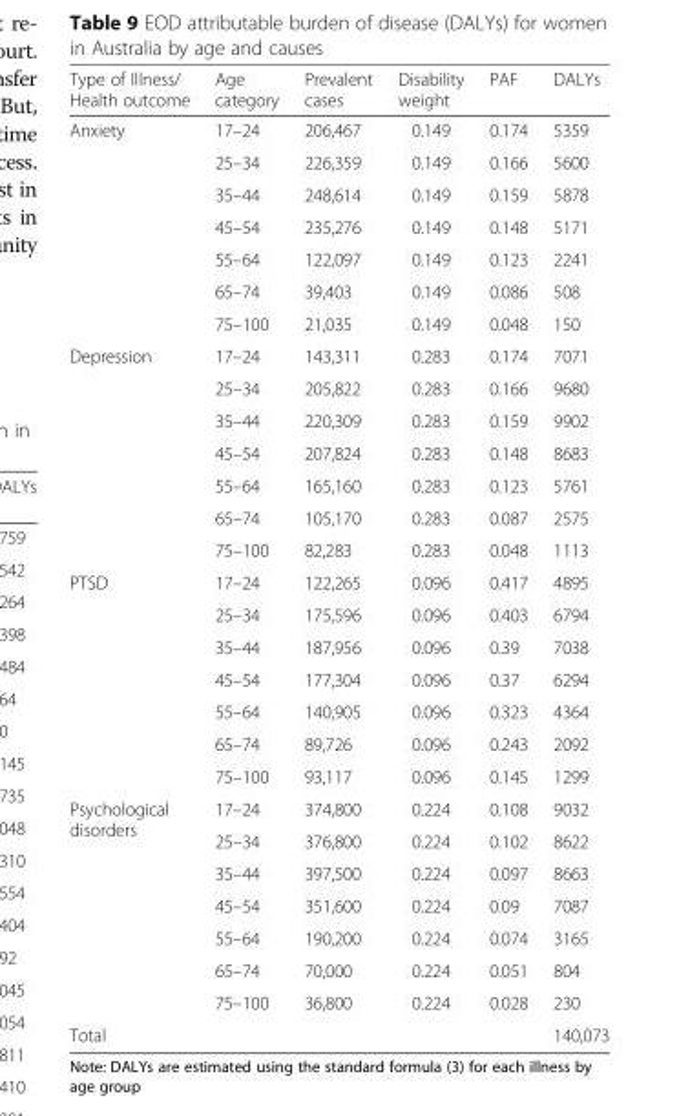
<table><thead><tr><td>Type of Illness/ Health outcome</td><td>Age category</td><td>Prevalent cases</td><td>Disability weight</td><td>PAF</td><td>DALYs</td></tr></thead><tbody><tr><td rowspan="7">Anxiety</td><td>17–24</td><td>206,467</td><td>0.149</td><td>0.174</td><td>5359</td></tr><tr><td>25–34</td><td>226,359</td><td>0.149</td><td>0.166</td><td>5600</td></tr><tr><td>35–44</td><td>248,614</td><td>0.149</td><td>0.159</td><td>5878</td></tr><tr><td>45–54</td><td>235,276</td><td>0.149</td><td>0.148</td><td>5171</td></tr><tr><td>55–64</td><td>122,097</td><td>0.149</td><td>0.123</td><td>2241</td></tr><tr><td>65–74</td><td>39,403</td><td>0.149</td><td>0.086</td><td>508</td></tr><tr><td>75–100</td><td>21,035</td><td>0.149</td><td>0.048</td><td>150</td></tr><tr><td rowspan="7">Depression</td><td>17–24</td><td>143,311</td><td>0.283</td><td>0.174</td><td>7071</td></tr><tr><td>25–34</td><td>205,822</td><td>0.283</td><td>0.166</td><td>9680</td></tr><tr><td>35–44</td><td>220,309</td><td>0.283</td><td>0.159</td><td>9902</td></tr><tr><td>45–54</td><td>207,824</td><td>0.283</td><td>0.148</td><td>8683</td></tr><tr><td>55–64</td><td>165,160</td><td>0.283</td><td>0.123</td><td>5761</td></tr><tr><td>65–74</td><td>105,170</td><td>0.283</td><td>0.087</td><td>2575</td></tr><tr><td>75–100</td><td>82,283</td><td>0.283</td><td>0.048</td><td>1113</td></tr><tr><td rowspan="7">PTSD</td><td>17–24</td><td>122,265</td><td>0.096</td><td>0.417</td><td>4895</td></tr><tr><td>25–34</td><td>175,596</td><td>0.096</td><td>0.403</td><td>6794</td></tr><tr><td>35–44</td><td>187,956</td><td>0.096</td><td>0.39</td><td>7038</td></tr><tr><td>45–54</td><td>177,304</td><td>0.096</td><td>0.37</td><td>6294</td></tr><tr><td>55–64</td><td>140,905</td><td>0.096</td><td>0.323</td><td>4364</td></tr><tr><td>65–74</td><td>89,726</td><td>0.096</td><td>0.243</td><td>2092</td></tr><tr><td>75–100</td><td>93,117</td><td>0.096</td><td>0.145</td><td>1299</td></tr><tr><td rowspan="7">Psychological disorders</td><td>17–24</td><td>374,800</td><td>0.224</td><td>0.108</td><td>9032</td></tr><tr><td>25–34</td><td>376,800</td><td>0.224</td><td>0.102</td><td>8622</td></tr><tr><td>35–44</td><td>397,500</td><td>0.224</td><td>0.097</td><td>8663</td></tr><tr><td>45–54</td><td>351,600</td><td>0.224</td><td>0.09</td><td>7087</td></tr><tr><td>55–64</td><td>190,200</td><td>0.224</td><td>0.074</td><td>3165</td></tr><tr><td>65–74</td><td>70,000</td><td>0.224</td><td>0.051</td><td>804</td></tr><tr><td>75–100</td><td>36,800</td><td>0.224</td><td>0.028</td><td>230</td></tr><tr><td colspan="5">Total</td><td>140,073</td></tr></tbody></table>